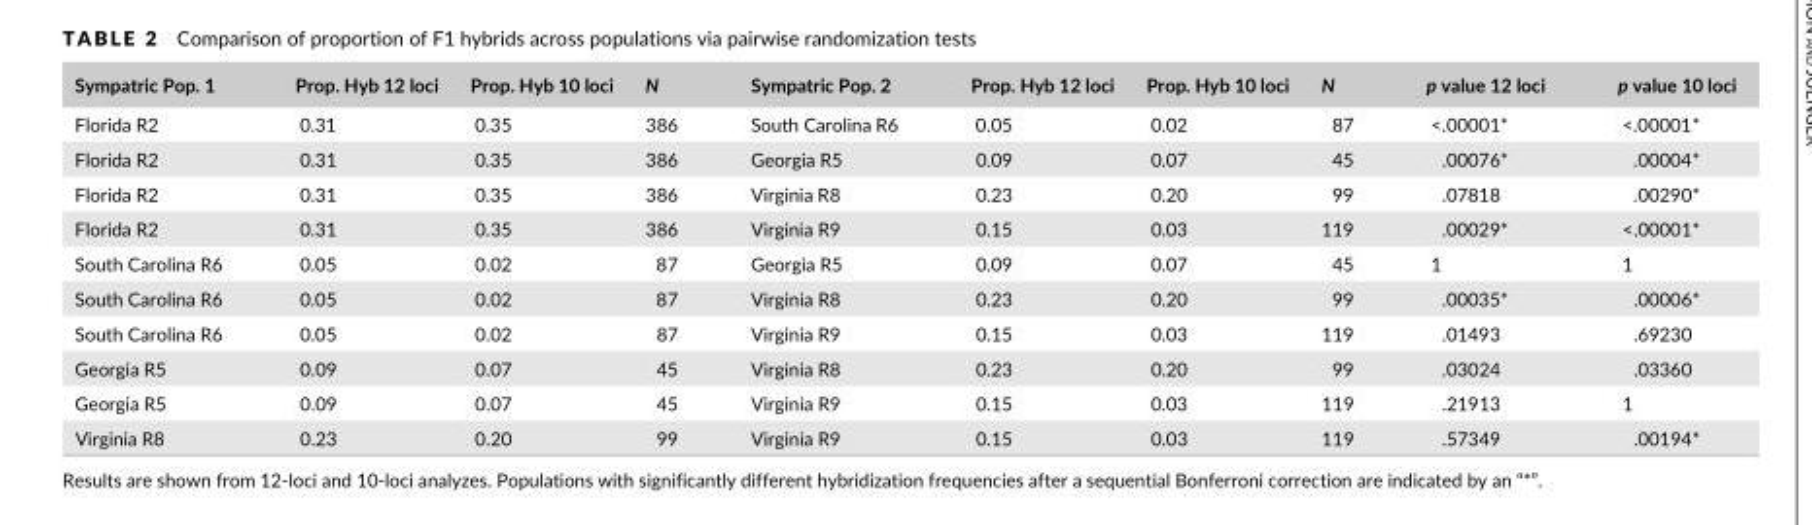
<table><thead><tr><td>Sympatric Pop. 1</td><td>Prop. Hyb 12 loci</td><td>Prop. Hyb 10 loci</td><td>N</td><td>Sympatric Pop. 2</td><td>Prop. Hyb 12 loci</td><td>Prop. Hyb 10 loci</td><td>N</td><td>p value 12 loci</td><td>p value 10 loci</td></tr></thead><tbody><tr><td>Florida R2</td><td>0.31</td><td>0.35</td><td>386</td><td>South Carolina R6</td><td>0.05</td><td>0.02</td><td>87</td><td>&lt;.00001*</td><td>&lt;.00001*</td></tr><tr><td>Florida R2</td><td>0.31</td><td>0.35</td><td>386</td><td>Georgia R5</td><td>0.09</td><td>0.07</td><td>45</td><td>.00076*</td><td>.00004*</td></tr><tr><td>Florida R2</td><td>0.31</td><td>0.35</td><td>386</td><td>Virginia R8</td><td>0.23</td><td>0.20</td><td>99</td><td>.07818</td><td>.00290*</td></tr><tr><td>Florida R2</td><td>0.31</td><td>0.35</td><td>386</td><td>Virginia R9</td><td>0.15</td><td>0.03</td><td>119</td><td>.00029*</td><td>&lt;.00001*</td></tr><tr><td>South Carolina R6</td><td>0.05</td><td>0.02</td><td>87</td><td>Georgia R5</td><td>0.09</td><td>0.07</td><td>45</td><td>1</td><td>1</td></tr><tr><td>South Carolina R6</td><td>0.05</td><td>0.02</td><td>87</td><td>Virginia R8</td><td>0.23</td><td>0.20</td><td>99</td><td>.00035*</td><td>.00006*</td></tr><tr><td>South Carolina R6</td><td>0.05</td><td>0.02</td><td>87</td><td>Virginia R9</td><td>0.15</td><td>0.03</td><td>119</td><td>.01493</td><td>.69230</td></tr><tr><td>Georgia R5</td><td>0.09</td><td>0.07</td><td>45</td><td>Virginia R8</td><td>0.23</td><td>0.20</td><td>99</td><td>.03024</td><td>.03360</td></tr><tr><td>Georgia R5</td><td>0.09</td><td>0.07</td><td>45</td><td>Virginia R9</td><td>0.15</td><td>0.03</td><td>119</td><td>.21913</td><td>1</td></tr><tr><td>Virginia R8</td><td>0.23</td><td>0.20</td><td>99</td><td>Virginia R9</td><td>0.15</td><td>0.03</td><td>119</td><td>.57349</td><td>.00194*</td></tr></tbody></table>